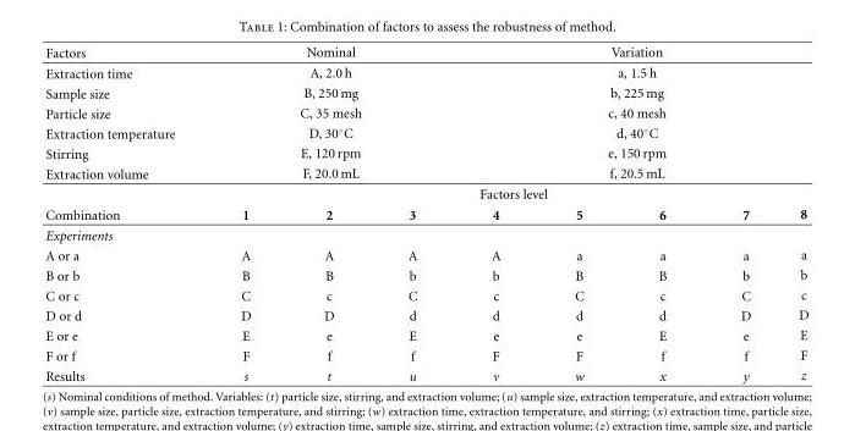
<table><thead><tr><td>Factors</td><td colspan="3">Nominal</td><td colspan="5">Variation</td></tr></thead><tbody><tr><td>Extraction time</td><td colspan="3">A, 2.0 h</td><td colspan="5">a, 1.5 h</td></tr><tr><td>Sample size</td><td colspan="3">B, 250 mg</td><td colspan="5">b, 225 mg</td></tr><tr><td>Particle size</td><td colspan="3">C, 35 mesh</td><td colspan="5">c, 40 mesh</td></tr><tr><td>Extraction temperature</td><td colspan="3">D, 30◦C</td><td colspan="5">d, 40◦C</td></tr><tr><td>Stirring</td><td colspan="3">E, 120 rpm</td><td colspan="5">e, 150 rpm</td></tr><tr><td rowspan="2">Extraction volume</td><td colspan="3">F, 20.0 mL</td><td colspan="5">f, 20.5 mL</td></tr><tr><td colspan="8">Factors level</td></tr><tr><td>Combination</td><td>1</td><td>2</td><td>3</td><td>4</td><td>5</td><td>6</td><td>7</td><td>8</td></tr><tr><td colspan="9">Experiments</td></tr><tr><td>A or a</td><td>A</td><td>A</td><td>A</td><td>A</td><td>a</td><td>a</td><td>a</td><td>a</td></tr><tr><td>B or b</td><td>B</td><td>B</td><td>b</td><td>b</td><td>B</td><td>B</td><td>b</td><td>b</td></tr><tr><td>C or c</td><td>C</td><td>c</td><td>C</td><td>c</td><td>C</td><td>c</td><td>C</td><td>c</td></tr><tr><td>D or d</td><td>D</td><td>D</td><td>d</td><td>d</td><td>d</td><td>d</td><td>D</td><td>D</td></tr><tr><td>E or e</td><td>E</td><td>e</td><td>E</td><td>e</td><td>e</td><td>E</td><td>e</td><td>E</td></tr><tr><td>F or f</td><td>F</td><td>f</td><td>f</td><td>F</td><td>F</td><td>f</td><td>f</td><td>F</td></tr><tr><td>Results</td><td>s</td><td>t</td><td>u</td><td>v</td><td>w</td><td>x</td><td>y</td><td>z</td></tr></tbody></table>